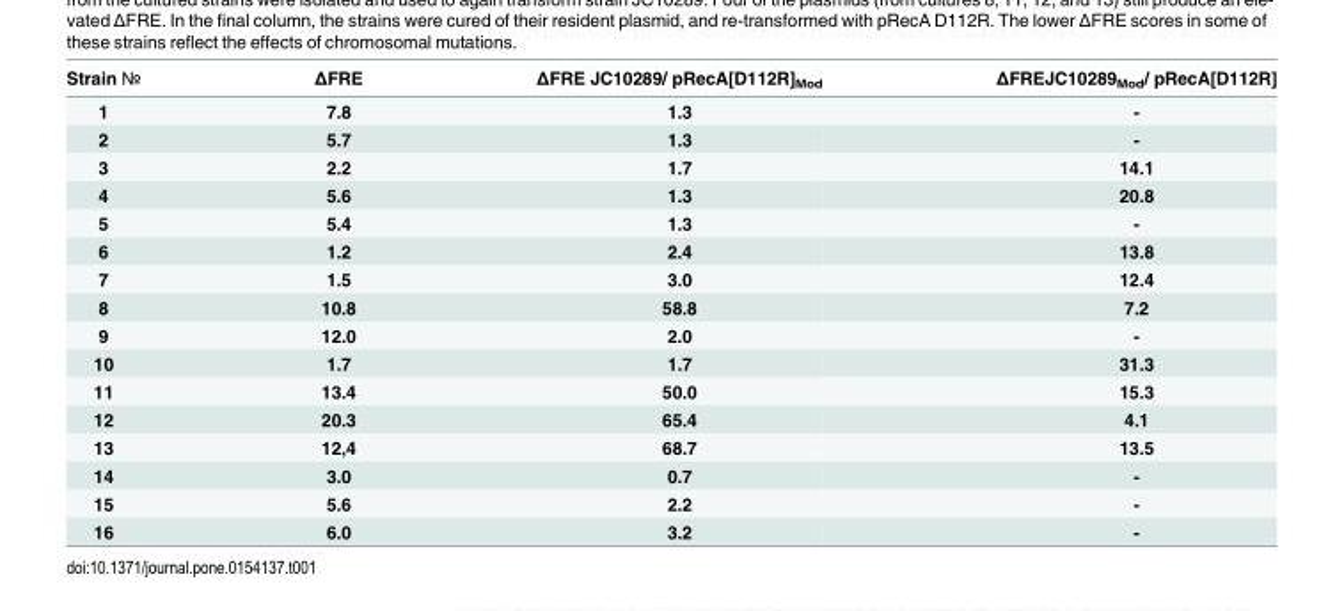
<table><thead><tr><td>Strain №</td><td>ΔFRE</td><td>ΔFRE JC10289/ pRecA[D112R]Mod</td><td>ΔFREJC10289<sub>Mod</sub>/ pRecA[D112R]</td></tr></thead><tbody><tr><td>1</td><td>7.8</td><td>1.3</td><td>-</td></tr><tr><td>2</td><td>5.7</td><td>1.3</td><td>-</td></tr><tr><td>3</td><td>2.2</td><td>1.7</td><td>14.1</td></tr><tr><td>4</td><td>5.6</td><td>1.3</td><td>20.8</td></tr><tr><td>5</td><td>5.4</td><td>1.3</td><td>-</td></tr><tr><td>6</td><td>1.2</td><td>2.4</td><td>13.8</td></tr><tr><td>7</td><td>1.5</td><td>3.0</td><td>12.4</td></tr><tr><td>8</td><td>10.8</td><td>58.8</td><td>7.2</td></tr><tr><td>9</td><td>12.0</td><td>2.0</td><td>-</td></tr><tr><td>10</td><td>1.7</td><td>1.7</td><td>31.3</td></tr><tr><td>11</td><td>13.4</td><td>50.0</td><td>15.3</td></tr><tr><td>12</td><td>20.3</td><td>65.4</td><td>4.1</td></tr><tr><td>13</td><td>12,4</td><td>68.7</td><td>13.5</td></tr><tr><td>14</td><td>3.0</td><td>0.7</td><td>-</td></tr><tr><td>15</td><td>5.6</td><td>2.2</td><td>-</td></tr><tr><td>16</td><td>6.0</td><td>3.2</td><td>-</td></tr></tbody></table>